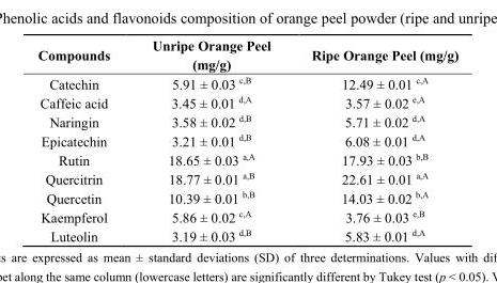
<table><thead><tr><td>Compounds</td><td>Unripe Orange Peel (mg/g)</td><td>Ripe Orange Peel (mg/g)</td></tr></thead><tbody><tr><td>Catechin</td><td>5.91 ± 0.03 <sup>c,B</sup></td><td>12.49 ± 0.01 <sup>c,A</sup></td></tr><tr><td>Caffeic acid</td><td>3.45 ± 0.01 <sup>d,A</sup></td><td>3.57 ± 0.02 <sup>e,A</sup></td></tr><tr><td>Naringin</td><td>3.58 ± 0.02 <sup>d,B</sup></td><td>5.71 ± 0.02 <sup>d,A</sup></td></tr><tr><td>Epicatechin</td><td>3.21 ± 0.01 <sup>d,B</sup></td><td>6.08 ± 0.01 <sup>d,A</sup></td></tr><tr><td>Rutin</td><td>18.65 ± 0.03 <sup>a,A</sup></td><td>17.93 ± 0.03 <sup>b,B</sup></td></tr><tr><td>Quercitrin</td><td>18.77 ± 0.01 <sup>a,B</sup></td><td>22.61 ± 0.01 <sup>a,A</sup></td></tr><tr><td>Quercetin</td><td>10.39 ± 0.01 <sup>b,B</sup></td><td>14.03 ± 0.02 <sup>b,A</sup></td></tr><tr><td>Kaempferol</td><td>5.86 ± 0.02 <sup>c,A</sup></td><td>3.76 ± 0.03 <sup>e,B</sup></td></tr><tr><td>Luteolin</td><td>3.19 ± 0.03 <sup>d,B</sup></td><td>5.83 ± 0.01 <sup>d,A</sup></td></tr></tbody></table>